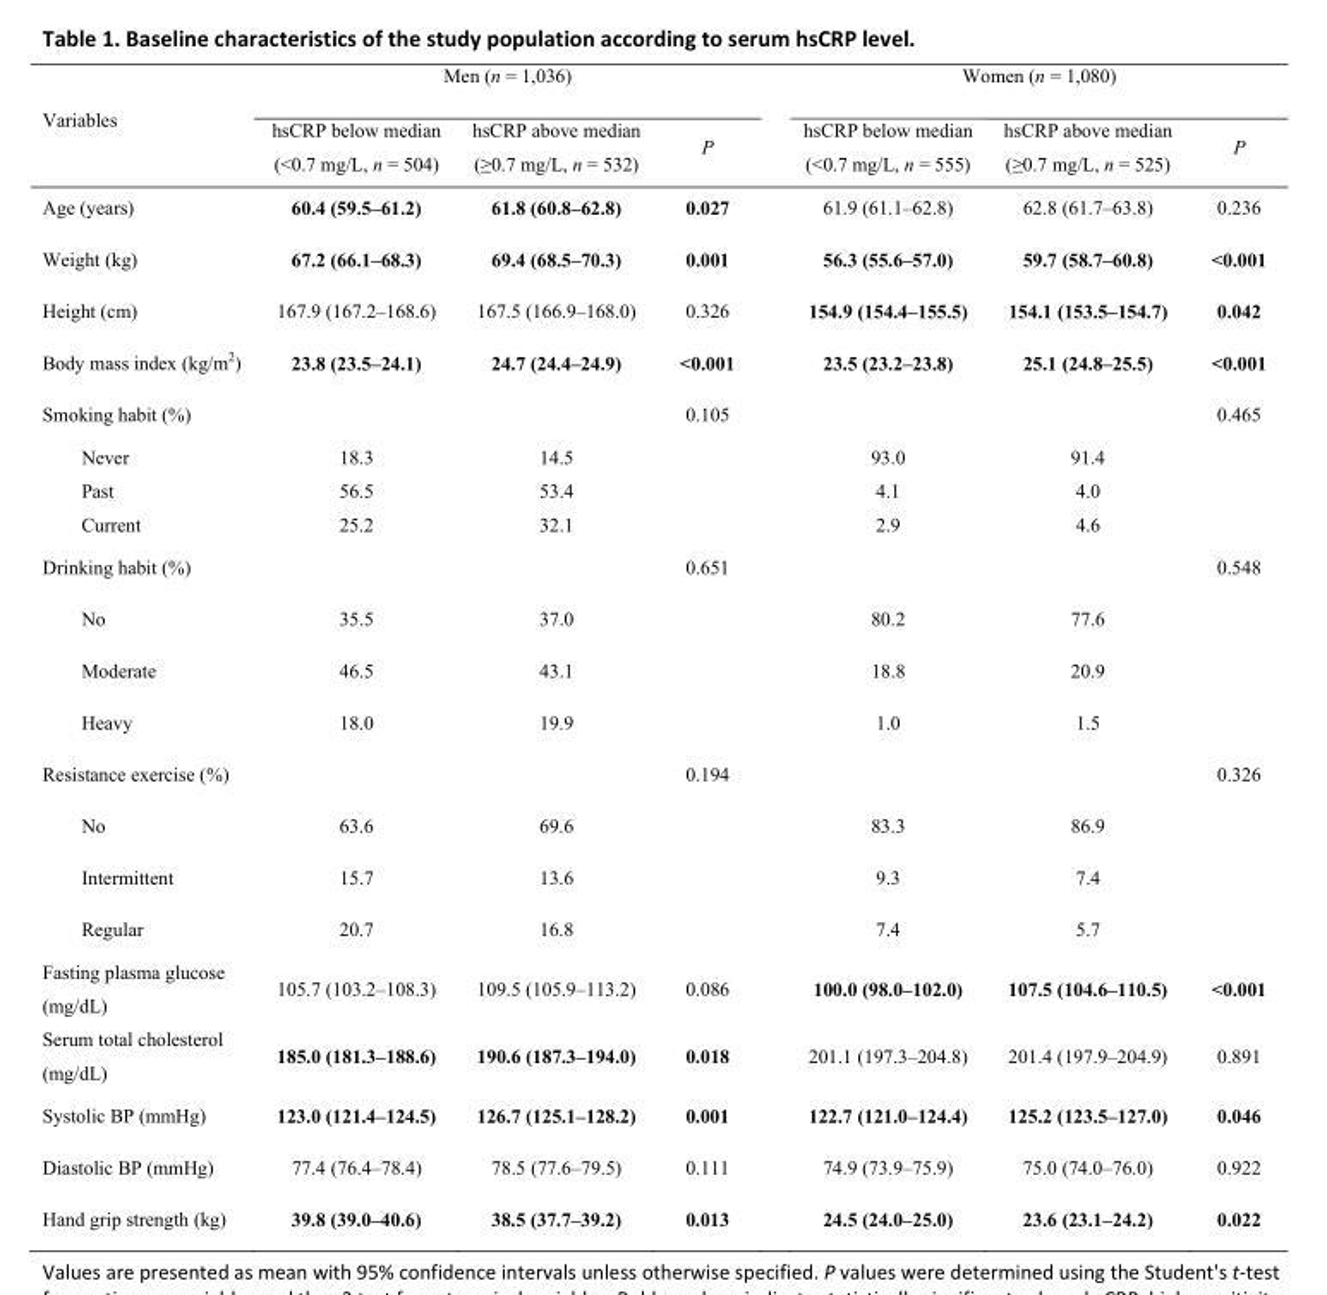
<table><tbody><tr><td rowspan="2">Variables</td><td colspan="3">Men (n = 1,036)</td><td colspan="3">Women (n = 1,080)</td></tr><tr><td>hsCRP below median (&lt;0.7 mg/L, n = 504)</td><td>hsCRP above median (≥0.7 mg/L, n = 532)</td><td>P</td><td>hsCRP below median (&lt;0.7 mg/L, n = 555)</td><td>hsCRP above median (≥0.7 mg/L, n = 525)</td><td>P</td></tr><tr><td>Age (years)</td><td>60.4 (59.5–61.2)</td><td>61.8 (60.8–62.8)</td><td>0.027</td><td>61.9 (61.1–62.8)</td><td>62.8 (61.7–63.8)</td><td>0.236</td></tr><tr><td>Weight (kg)</td><td>67.2 (66.1–68.3)</td><td>69.4 (68.5–70.3)</td><td>0.001</td><td>56.3 (55.6–57.0)</td><td>59.7 (58.7–60.8)</td><td>&lt;0.001</td></tr><tr><td>Height (cm)</td><td>167.9 (167.2–168.6)</td><td>167.5 (166.9–168.0)</td><td>0.326</td><td>154.9 (154.4–155.5)</td><td>154.1 (153.5–154.7)</td><td>0.042</td></tr><tr><td>Body mass index (kg/m<sup>2</sup>)</td><td>23.8 (23.5–24.1)</td><td>24.7 (24.4–24.9)</td><td>&lt;0.001</td><td>23.5 (23.2–23.8)</td><td>25.1 (24.8–25.5)</td><td>&lt;0.001</td></tr><tr><td>Smoking habit (%)</td><td></td><td></td><td>0.105</td><td></td><td></td><td>0.465</td></tr><tr><td>Never Past Current</td><td>18.3 56.5 25.2</td><td>14.5 53.4 32.1</td><td></td><td>93.0 4.1 2.9</td><td>91.4 4.0 4.6</td><td></td></tr><tr><td>Drinking habit (%)</td><td></td><td></td><td>0.651</td><td></td><td></td><td>0.548</td></tr><tr><td>No</td><td>35.5</td><td>37.0</td><td></td><td>80.2</td><td>77.6</td><td></td></tr><tr><td>Moderate</td><td>46.5</td><td>43.1</td><td></td><td>18.8</td><td>20.9</td><td></td></tr><tr><td>Heavy</td><td>18.0</td><td>19.9</td><td></td><td>1.0</td><td>1.5</td><td></td></tr><tr><td>Resistance exercise (%)</td><td></td><td></td><td>0.194</td><td></td><td></td><td>0.326</td></tr><tr><td>No</td><td>63.6</td><td>69.6</td><td></td><td>83.3</td><td>86.9</td><td></td></tr><tr><td>Intermittent</td><td>15.7</td><td>13.6</td><td></td><td>9.3</td><td>7.4</td><td></td></tr><tr><td>Regular</td><td>20.7</td><td>16.8</td><td></td><td>7.4</td><td>5.7</td><td></td></tr><tr><td>Fasting plasma glucose (mg/dL)</td><td>105.7 (103.2–108.3)</td><td>109.5 (105.9–113.2)</td><td>0.086</td><td>100.0 (98.0–102.0)</td><td>107.5 (104.6–110.5)</td><td>&lt;0.001</td></tr><tr><td>Serum total cholesterol (mg/dL)</td><td>185.0 (181.3–188.6)</td><td>190.6 (187.3–194.0)</td><td>0.018</td><td>201.1 (197.3–204.8)</td><td>201.4 (197.9–204.9)</td><td>0.891</td></tr><tr><td>Systolic BP (mmHg)</td><td>123.0 (121.4–124.5)</td><td>126.7 (125.1–128.2)</td><td>0.001</td><td>122.7 (121.0–124.4)</td><td>125.2 (123.5–127.0)</td><td>0.046</td></tr><tr><td>Diastolic BP (mmHg)</td><td>77.4 (76.4–78.4)</td><td>78.5 (77.6–79.5)</td><td>0.111</td><td>74.9 (73.9–75.9)</td><td>75.0 (74.0–76.0)</td><td>0.922</td></tr><tr><td>Hand grip strength (kg)</td><td>39.8 (39.0–40.6)</td><td>38.5 (37.7–39.2)</td><td>0.013</td><td>24.5 (24.0–25.0)</td><td>23.6 (23.1–24.2)</td><td>0.022</td></tr></tbody></table>